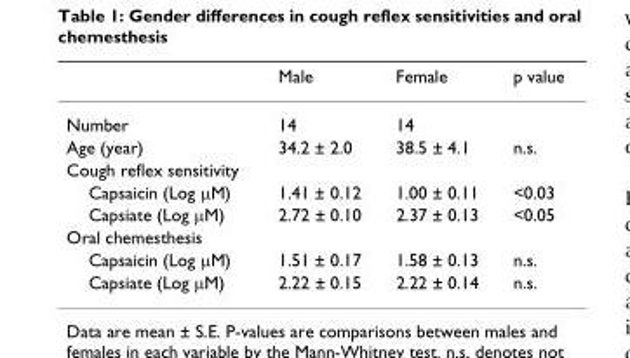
<table><thead><tr><td></td><td>Male</td><td>Female</td><td>p value</td></tr></thead><tbody><tr><td>Number</td><td>14</td><td>14</td><td></td></tr><tr><td>Age (year)</td><td>34.2 ± 2.0</td><td>38.5 ± 4.1</td><td>n.s.</td></tr><tr><td colspan="4">Cough reflex sensitivity</td></tr><tr><td>Capsaicin (Log µM)</td><td>1.41 ± 0.12</td><td>1.00 ± 0.11</td><td>&lt;0.03</td></tr><tr><td>Capsiate (Log µM)</td><td>2.72 ± 0.10</td><td>2.37 ± 0.13</td><td>&lt;0.05</td></tr><tr><td colspan="4">Oral chemesthesis</td></tr><tr><td>Capsaicin (Log µM)</td><td>1.51 ± 0.17</td><td>1.58 ± 0.13</td><td>n.s.</td></tr><tr><td>Capsiate (Log µM)</td><td>2.22 ± 0.15</td><td>2.22 ± 0.14</td><td>n.s.</td></tr></tbody></table>